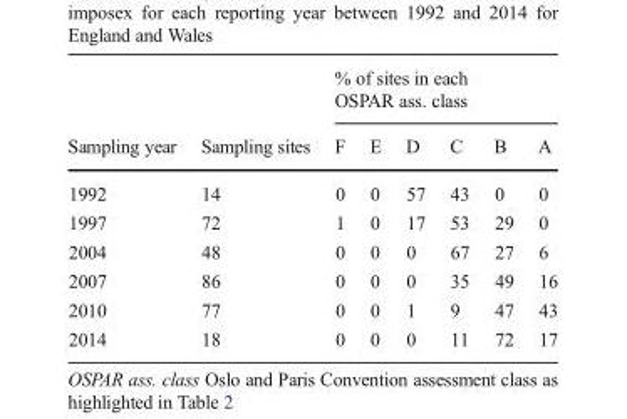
<table><thead><tr><td rowspan="2">Sampling year</td><td rowspan="2">Sampling sites</td><td colspan="6">% of sites in each OSPAR ass. class</td></tr><tr><td>F</td><td>E</td><td>D</td><td>C</td><td>B</td><td>A</td></tr></thead><tbody><tr><td>1992</td><td>14</td><td>0</td><td>0</td><td>57</td><td>43</td><td>0</td><td>0</td></tr><tr><td>1997</td><td>72</td><td>1</td><td>0</td><td>17</td><td>53</td><td>29</td><td>0</td></tr><tr><td>2004</td><td>48</td><td>0</td><td>0</td><td>0</td><td>67</td><td>27</td><td>6</td></tr><tr><td>2007</td><td>86</td><td>0</td><td>0</td><td>0</td><td>35</td><td>49</td><td>16</td></tr><tr><td>2010</td><td>77</td><td>0</td><td>0</td><td>1</td><td>9</td><td>47</td><td>43</td></tr><tr><td>2014</td><td>18</td><td>0</td><td>0</td><td>0</td><td>11</td><td>72</td><td>17</td></tr></tbody></table>